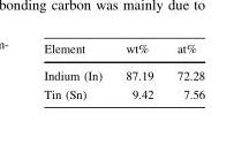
<table><thead><tr><td>Element</td><td>wt%</td><td>at%</td></tr></thead><tbody><tr><td>Indium (In)</td><td>87.19</td><td>72.28</td></tr><tr><td>Tin (Sn)</td><td>9.42</td><td>7.56</td></tr></tbody></table>